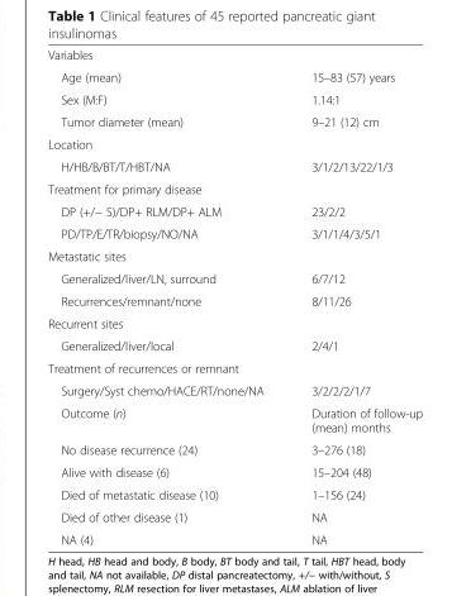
<table><tbody><tr><td colspan="2">Variables</td></tr><tr><td>Age (mean)</td><td>15–83 (57) years</td></tr><tr><td>Sex (M:F)</td><td>1.14:1</td></tr><tr><td>Tumor diameter (mean)</td><td>9–21 (12) cm</td></tr><tr><td colspan="2">Location</td></tr><tr><td>H/HB/B/BT/T/HBT/NA</td><td>3/1/2/13/22/1/3</td></tr><tr><td colspan="2">Treatment for primary disease</td></tr><tr><td>DP (+/− S)/DP+ RLM/DP+ ALM</td><td>23/2/2</td></tr><tr><td>PD/TP/E/TR/biopsy/NO/NA</td><td>3/1/1/4/3/5/1</td></tr><tr><td colspan="2">Metastatic sites</td></tr><tr><td>Generalized/liver/LN, surround</td><td>6/7/12</td></tr><tr><td>Recurrences/remnant/none</td><td>8/11/26</td></tr><tr><td colspan="2">Recurrent sites</td></tr><tr><td>Generalized/liver/local</td><td>2/4/1</td></tr><tr><td colspan="2">Treatment of recurrences or remnant</td></tr><tr><td>Surgery/Syst chemo/HACE/RT/none/NA</td><td>3/2/2/2/1/7</td></tr><tr><td>Outcome (n)</td><td>Duration of follow-up (mean) months</td></tr><tr><td>No disease recurrence (24)</td><td>3–276 (18)</td></tr><tr><td>Alive with disease (6)</td><td>15–204 (48)</td></tr><tr><td>Died of metastatic disease (10)</td><td>1–156 (24)</td></tr><tr><td>Died of other disease (1)</td><td>NA</td></tr><tr><td>NA (4)</td><td>NA</td></tr></tbody></table>